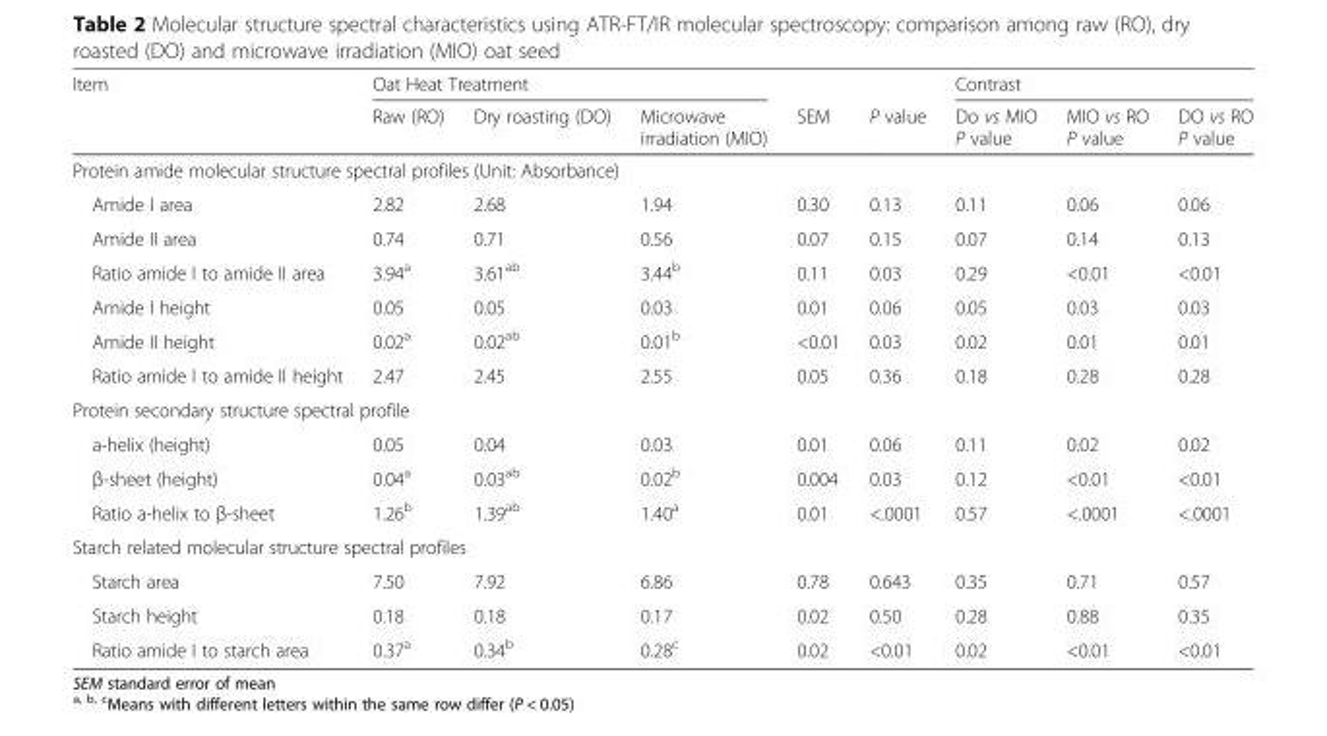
<table><thead><tr><td rowspan="2">Item</td><td colspan="3">Oat Heat Treatment</td><td rowspan="2">SEM</td><td rowspan="2">P value</td><td colspan="3">Contrast</td></tr><tr><td>Raw (RO)</td><td>Dry roasting (DO)</td><td>Microwave irradiation (MIO)</td><td>Do vs MIO P value</td><td>MIO vs RO P value</td><td>DO vs RO P value</td></tr></thead><tbody><tr><td colspan="9">Protein amide molecular structure spectral profiles (Unit: Absorbance)</td></tr><tr><td>Amide I area</td><td>2.82</td><td>2.68</td><td>1.94</td><td>0.30</td><td>0.13</td><td>0.11</td><td>0.06</td><td>0.06</td></tr><tr><td>Amide II area</td><td>0.74</td><td>0.71</td><td>0.56</td><td>0.07</td><td>0.15</td><td>0.07</td><td>0.14</td><td>0.13</td></tr><tr><td>Ratio amide I to amide II area</td><td>3.94<sup>a</sup></td><td>3.61<sup>ab</sup></td><td>3.44<sup>b</sup></td><td>0.11</td><td>0.03</td><td>0.29</td><td>&lt;0.01</td><td>&lt;0.01</td></tr><tr><td>Amide I height</td><td>0.05</td><td>0.05</td><td>0.03</td><td>0.01</td><td>0.06</td><td>0.05</td><td>0.03</td><td>0.03</td></tr><tr><td>Amide II height</td><td>0.02<sup>a</sup></td><td>0.02<sup>ab</sup></td><td>0.01<sup>b</sup></td><td>&lt;0.01</td><td>0.03</td><td>0.02</td><td>0.01</td><td>0.01</td></tr><tr><td>Ratio amide I to amide II height</td><td>2.47</td><td>2.45</td><td>2.55</td><td>0.05</td><td>0.36</td><td>0.18</td><td>0.28</td><td>0.28</td></tr><tr><td colspan="9">Protein secondary structure spectral profile</td></tr><tr><td>a-helix (height)</td><td>0.05</td><td>0.04</td><td>0.03</td><td>0.01</td><td>0.06</td><td>0.11</td><td>0.02</td><td>0.02</td></tr><tr><td>β-sheet (height)</td><td>0.04<sup>a</sup></td><td>0.03<sup>ab</sup></td><td>0.02<sup>b</sup></td><td>0.004</td><td>0.03</td><td>0.12</td><td>&lt;0.01</td><td>&lt;0.01</td></tr><tr><td>Ratio a-helix to β-sheet</td><td>1.26<sup>b</sup></td><td>1.39<sup>ab</sup></td><td>1.40<sup>a</sup></td><td>0.01</td><td>&lt;.0001</td><td>0.57</td><td>&lt;.0001</td><td>&lt;.0001</td></tr><tr><td colspan="9">Starch related molecular structure spectral profiles</td></tr><tr><td>Starch area</td><td>7.50</td><td>7.92</td><td>6.86</td><td>0.78</td><td>0.643</td><td>0.35</td><td>0.71</td><td>0.57</td></tr><tr><td>Starch height</td><td>0.18</td><td>0.18</td><td>0.17</td><td>0.02</td><td>0.50</td><td>0.28</td><td>0.88</td><td>0.35</td></tr><tr><td>Ratio amide I to starch area</td><td>0.37<sup>a</sup></td><td>0.34<sup>b</sup></td><td>0.28<sup>c</sup></td><td>0.02</td><td>&lt;0.01</td><td>0.02</td><td>&lt;0.01</td><td>&lt;0.01</td></tr></tbody></table>